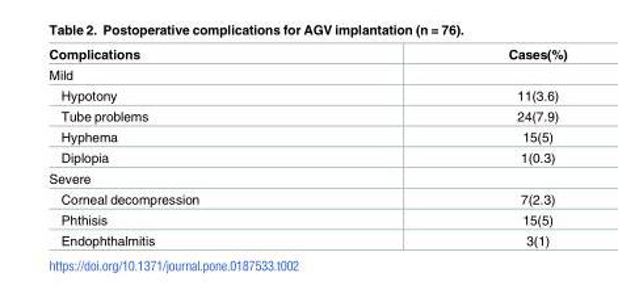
<table><thead><tr><td>Complications</td><td>Cases(%)</td></tr></thead><tbody><tr><td colspan="2">Mild</td></tr><tr><td>Hypotony</td><td>11(3.6)</td></tr><tr><td>Tube problems</td><td>24(7.9)</td></tr><tr><td>Hyphema</td><td>15(5)</td></tr><tr><td>Diplopia</td><td>1(0.3)</td></tr><tr><td colspan="2">Severe</td></tr><tr><td>Corneal decompression</td><td>7(2.3)</td></tr><tr><td>Phthisis</td><td>15(5)</td></tr><tr><td>Endophthalmitis</td><td>3(1)</td></tr></tbody></table>